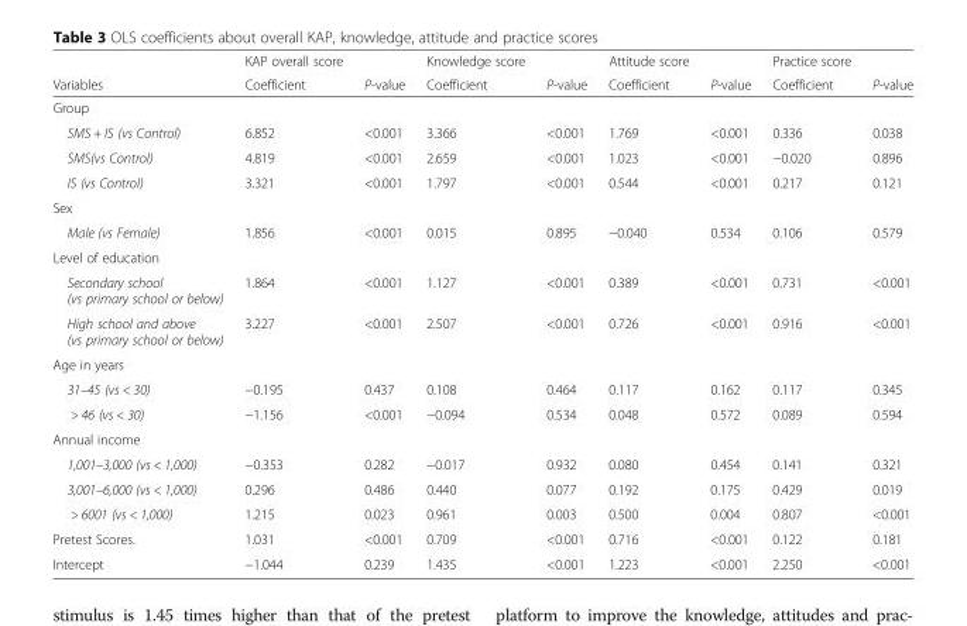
<table><thead><tr><td rowspan="2">Variables</td><td rowspan="2">KAP overall score Coefficient</td><td rowspan="2">P-value</td><td rowspan="2">Knowledge score Coefficient</td><td rowspan="2">P-value</td><td rowspan="2">Attitude score Coefficient</td><td rowspan="2">P-value</td><td rowspan="2">Practice score Coefficient</td><td rowspan="2">P-value</td></tr><tr></tr></thead><tbody><tr><td colspan="9">Group</td></tr><tr><td>SMS + IS (vs Control)</td><td>6.852</td><td>&lt;0.001</td><td>3.366</td><td>&lt;0.001</td><td>1.769</td><td>&lt;0.001</td><td>0.336</td><td>0.038</td></tr><tr><td>SMS(vs Control)</td><td>4.819</td><td>&lt;0.001</td><td>2.659</td><td>&lt;0.001</td><td>1.023</td><td>&lt;0.001</td><td>−0.020</td><td>0.896</td></tr><tr><td>IS (vs Control)</td><td>3.321</td><td>&lt;0.001</td><td>1.797</td><td>&lt;0.001</td><td>0.544</td><td>&lt;0.001</td><td>0.217</td><td>0.121</td></tr><tr><td colspan="9">Sex</td></tr><tr><td>Male (vs Female)</td><td>1.856</td><td>&lt;0.001</td><td>0.015</td><td>0.895</td><td>−0.040</td><td>0.534</td><td>0.106</td><td>0.579</td></tr><tr><td colspan="9">Level of education</td></tr><tr><td>Secondary school (vs primary school or below)</td><td>1.864</td><td>&lt;0.001</td><td>1.127</td><td>&lt;0.001</td><td>0.389</td><td>&lt;0.001</td><td>0.731</td><td>&lt;0.001</td></tr><tr><td>High school and above (vs primary school or below)</td><td>3.227</td><td>&lt;0.001</td><td>2.507</td><td>&lt;0.001</td><td>0.726</td><td>&lt;0.001</td><td>0.916</td><td>&lt;0.001</td></tr><tr><td colspan="9">Age in years</td></tr><tr><td>31–45 (vs &lt; 30)</td><td>−0.195</td><td>0.437</td><td>0.108</td><td>0.464</td><td>0.117</td><td>0.162</td><td>0.117</td><td>0.345</td></tr><tr><td>&gt; 46 (vs &lt; 30)</td><td>−1.156</td><td>&lt;0.001</td><td>−0.094</td><td>0.534</td><td>0.048</td><td>0.572</td><td>0.089</td><td>0.594</td></tr><tr><td colspan="9">Annual income</td></tr><tr><td>1,001–3,000 (vs &lt; 1,000)</td><td>−0.353</td><td>0.282</td><td>−0.017</td><td>0.932</td><td>0.080</td><td>0.454</td><td>0.141</td><td>0.321</td></tr><tr><td>3,001–6,000 (vs &lt; 1,000)</td><td>0.296</td><td>0.486</td><td>0.440</td><td>0.077</td><td>0.192</td><td>0.175</td><td>0.429</td><td>0.019</td></tr><tr><td>&gt; 6001 (vs &lt; 1,000)</td><td>1.215</td><td>0.023</td><td>0.961</td><td>0.003</td><td>0.500</td><td>0.004</td><td>0.807</td><td>&lt;0.001</td></tr><tr><td>Pretest Scores.</td><td>1.031</td><td>&lt;0.001</td><td>0.709</td><td>&lt;0.001</td><td>0.716</td><td>&lt;0.001</td><td>0.122</td><td>0.181</td></tr><tr><td>Intercept</td><td>−1.044</td><td>0.239</td><td>1.435</td><td>&lt;0.001</td><td>1.223</td><td>&lt;0.001</td><td>2.250</td><td>&lt;0.001</td></tr></tbody></table>